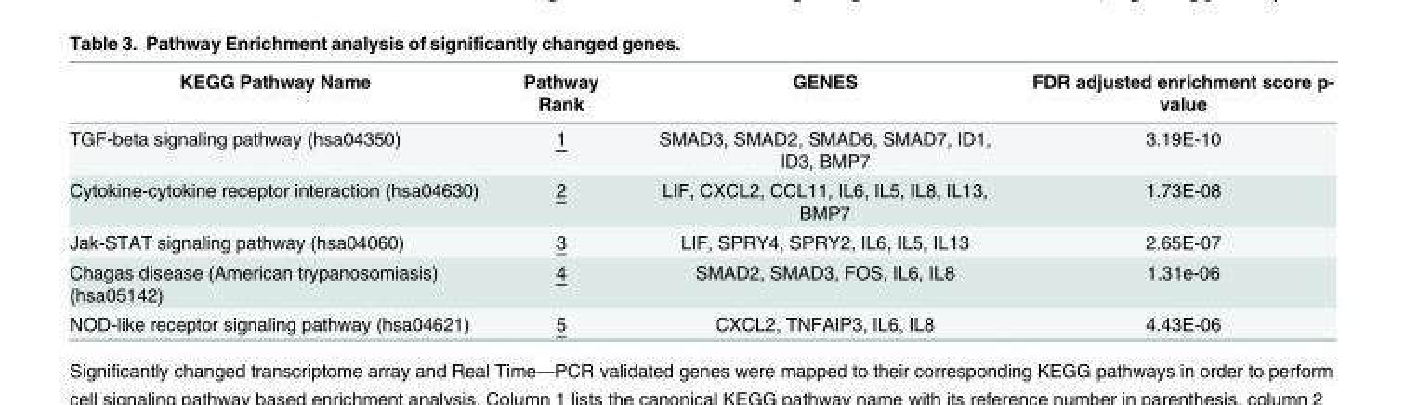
<table><thead><tr><td>KEGG Pathway Name</td><td>Pathway Rank</td><td>GENES</td><td>FDR adjusted enrichment score p- value</td></tr></thead><tbody><tr><td>TGF-beta signaling pathway (hsa04350)</td><td>1</td><td>SMAD3, SMAD2, SMAD6, SMAD7, ID1, ID3, BMP7</td><td>3.19E-10</td></tr><tr><td>Cytokine-cytokine receptor interaction (hsa04630)</td><td>2</td><td>LIF, CXCL2, CCL11, IL6, IL5, IL8, IL13, BMP7</td><td>1.73E-08</td></tr><tr><td>Jak-STAT signaling pathway (hsa04060)</td><td>3</td><td>LIF, SPRY4, SPRY2, IL6, IL5, IL13</td><td>2.65E-07</td></tr><tr><td>Chagas disease (American trypanosomiasis) (hsa05142)</td><td>4</td><td>SMAD2, SMAD3, FOS, IL6, IL8</td><td>1.31e-06</td></tr><tr><td>NOD-like receptor signaling pathway (hsa04621)</td><td>5</td><td>CXCL2, TNFAIP3, IL6, IL8</td><td>4.43E-06</td></tr></tbody></table>